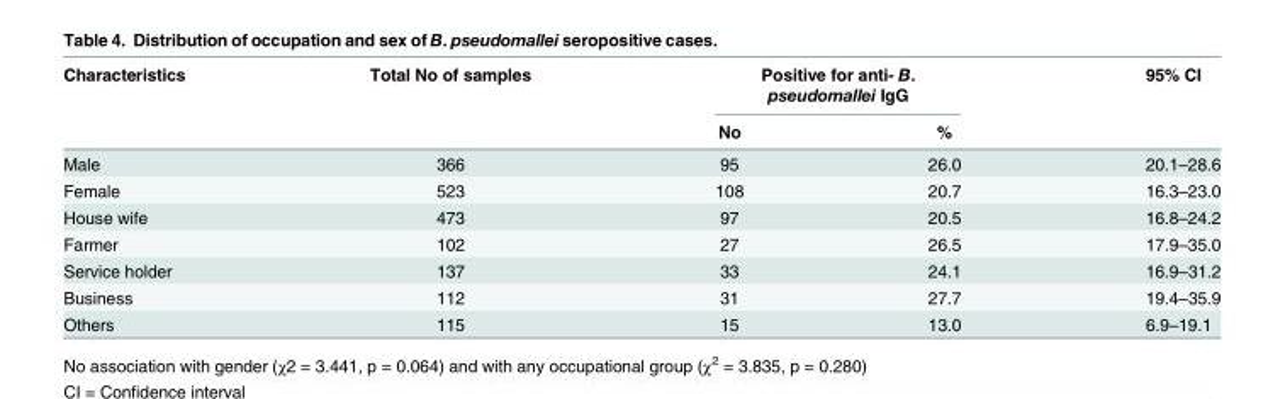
<table><thead><tr><td rowspan="2">Characteristics</td><td rowspan="2">Total No of samples</td><td colspan="2">Positive for anti- B. pseudomallei IgG</td><td rowspan="2">95% CI</td></tr><tr><td>No</td><td>%</td></tr></thead><tbody><tr><td>Male</td><td>366</td><td>95</td><td>26.0</td><td>20.1–28.6</td></tr><tr><td>Female</td><td>523</td><td>108</td><td>20.7</td><td>16.3–23.0</td></tr><tr><td>House wife</td><td>473</td><td>97</td><td>20.5</td><td>16.8–24.2</td></tr><tr><td>Farmer</td><td>102</td><td>27</td><td>26.5</td><td>17.9–35.0</td></tr><tr><td>Service holder</td><td>137</td><td>33</td><td>24.1</td><td>16.9–31.2</td></tr><tr><td>Business</td><td>112</td><td>31</td><td>27.7</td><td>19.4–35.9</td></tr><tr><td>Others</td><td>115</td><td>15</td><td>13.0</td><td>6.9–19.1</td></tr></tbody></table>